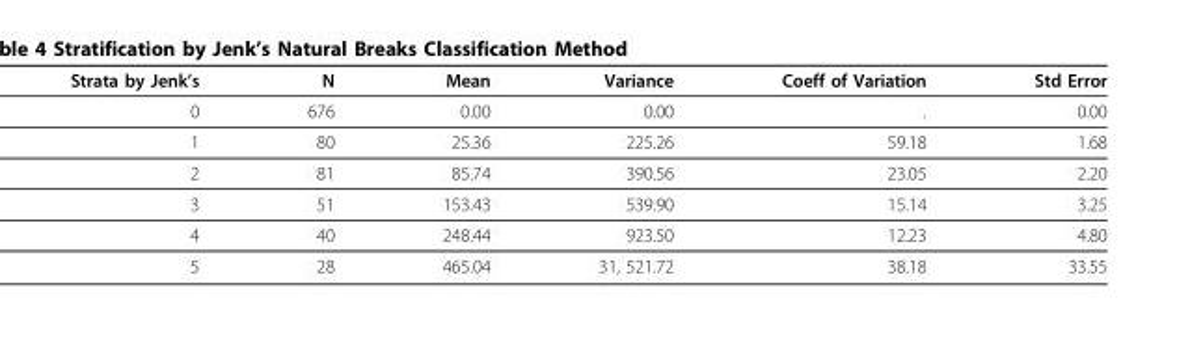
<table><thead><tr><td>Strata by Jenk’s</td><td>N</td><td>Mean</td><td>Variance</td><td>Coeff of Variation</td><td>Std Error</td></tr></thead><tbody><tr><td>0</td><td>676</td><td>0.00</td><td>0.00</td><td>.</td><td>0.00</td></tr><tr><td>1</td><td>80</td><td>25.36</td><td>225.26</td><td>59.18</td><td>1.68</td></tr><tr><td>2</td><td>81</td><td>85.74</td><td>390.56</td><td>23.05</td><td>2.20</td></tr><tr><td>3</td><td>51</td><td>153.43</td><td>539.90</td><td>15.14</td><td>3.25</td></tr><tr><td>4</td><td>40</td><td>248.44</td><td>923.50</td><td>12.23</td><td>4.80</td></tr><tr><td>5</td><td>28</td><td>465.04</td><td>31, 521.72</td><td>38.18</td><td>33.55</td></tr></tbody></table>